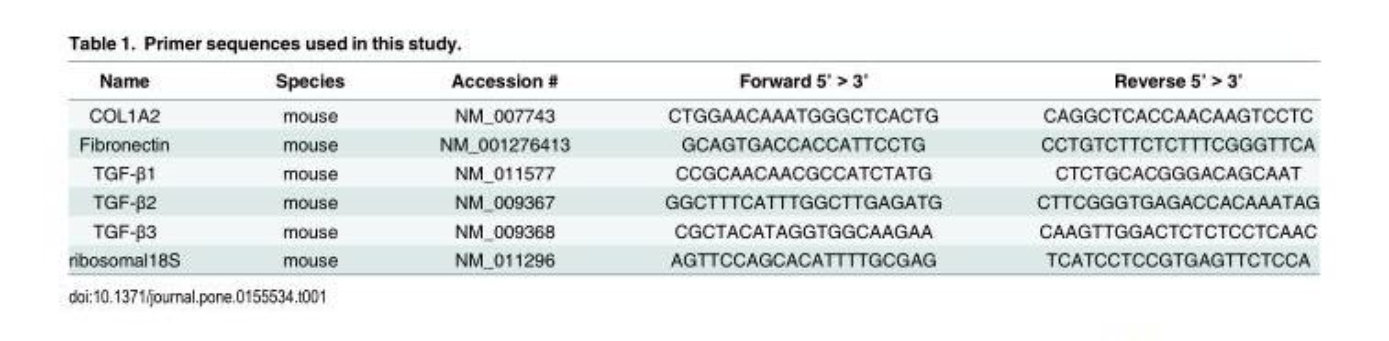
<table><thead><tr><td>Name</td><td>Species</td><td>Accession #</td><td>Forward 5’ &gt; 3’</td><td>Reverse 5’ &gt; 3’</td></tr></thead><tbody><tr><td>COL1A2</td><td>mouse</td><td>NM_007743</td><td>CTGGAACAAATGGGCTCACTG</td><td>CAGGCTCACCAACAAGTCCTC</td></tr><tr><td>Fibronectin</td><td>mouse</td><td>NM_001276413</td><td>GCAGTGACCACCATTCCTG</td><td>CCTGTCTTCTCTTTCGGGTTCA</td></tr><tr><td>TGF-β1</td><td>mouse</td><td>NM_011577</td><td>CCGCAACAACGCCATCTATG</td><td>CTCTGCACGGGACAGCAAT</td></tr><tr><td>TGF-β2</td><td>mouse</td><td>NM_009367</td><td>GGCTTTCATTTGGCTTGAGATG</td><td>CTTCGGGTGAGACCACAAATAG</td></tr><tr><td>TGF-β3</td><td>mouse</td><td>NM_009368</td><td>CGCTACATAGGTGGCAAGAA</td><td>CAAGTTGGACTCTCTCCTCAAC</td></tr><tr><td>ribosomal18S</td><td>mouse</td><td>NM_011296</td><td>AGTTCCAGCACATTTTGCGAG</td><td>TCATCCTCCGTGAGTTCTCCA</td></tr></tbody></table>